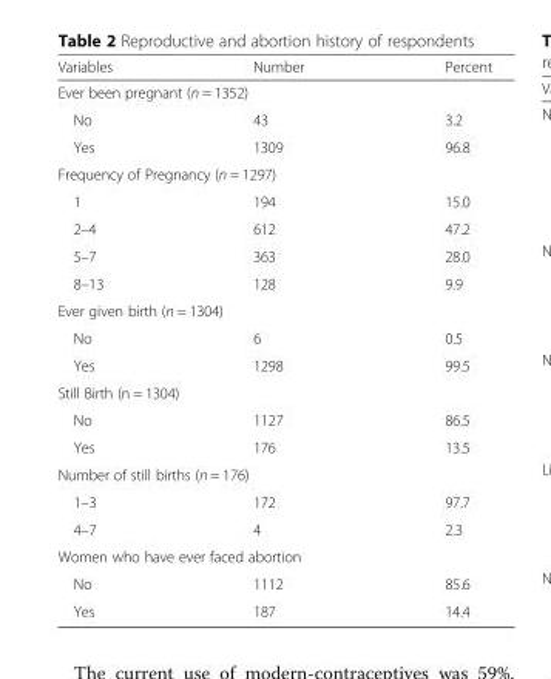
<table><thead><tr><td>Variables</td><td>Number</td><td>Percent</td></tr></thead><tbody><tr><td colspan="3">Ever been pregnant (n = 1352)</td></tr><tr><td>No</td><td>43</td><td>3.2</td></tr><tr><td>Yes</td><td>1309</td><td>96.8</td></tr><tr><td colspan="3">Frequency of Pregnancy (n = 1297)</td></tr><tr><td>1</td><td>194</td><td>15.0</td></tr><tr><td>2–4</td><td>612</td><td>47.2</td></tr><tr><td>5–7</td><td>363</td><td>28.0</td></tr><tr><td>8–13</td><td>128</td><td>9.9</td></tr><tr><td colspan="3">Ever given birth (n = 1304)</td></tr><tr><td>No</td><td>6</td><td>0.5</td></tr><tr><td>Yes</td><td>1298</td><td>99.5</td></tr><tr><td colspan="3">Still Birth (n = 1304)</td></tr><tr><td>No</td><td>1127</td><td>86.5</td></tr><tr><td>Yes</td><td>176</td><td>13.5</td></tr><tr><td colspan="3">Number of still births (n = 176)</td></tr><tr><td>1–3</td><td>172</td><td>97.7</td></tr><tr><td>4–7</td><td>4</td><td>2.3</td></tr><tr><td colspan="3">Women who have ever faced abortion</td></tr><tr><td>No</td><td>1112</td><td>85.6</td></tr><tr><td>Yes</td><td>187</td><td>14.4</td></tr></tbody></table>